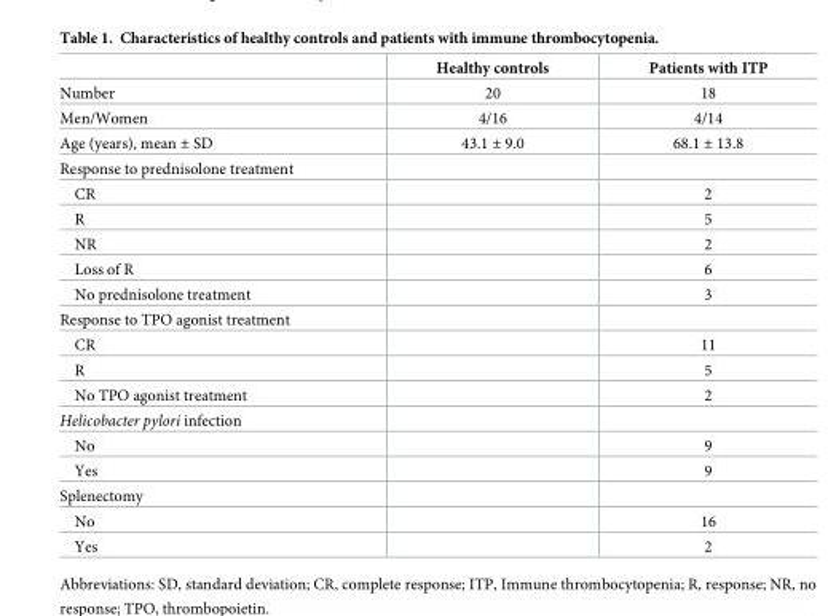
<table><thead><tr><td></td><td>Healthy controls</td><td>Patients with ITP</td></tr></thead><tbody><tr><td>Number</td><td>20</td><td>18</td></tr><tr><td>Men/Women</td><td>4/16</td><td>4/14</td></tr><tr><td>Age (years), mean ± SD</td><td>43.1 ± 9.0</td><td>68.1 ± 13.8</td></tr><tr><td colspan="3">Response to prednisolone treatment</td></tr><tr><td>CR</td><td></td><td>2</td></tr><tr><td>R</td><td></td><td>5</td></tr><tr><td>NR</td><td></td><td>2</td></tr><tr><td>Loss of R</td><td></td><td>6</td></tr><tr><td>No prednisolone treatment</td><td></td><td>3</td></tr><tr><td colspan="3">Response to TPO agonist treatment</td></tr><tr><td>CR</td><td></td><td>11</td></tr><tr><td>R</td><td></td><td>5</td></tr><tr><td>No TPO agonist treatment</td><td></td><td>2</td></tr><tr><td colspan="3">Helicobacter pylori infection</td></tr><tr><td>No</td><td></td><td>9</td></tr><tr><td>Yes</td><td></td><td>9</td></tr><tr><td colspan="3">Splenectomy</td></tr><tr><td>No</td><td></td><td>16</td></tr><tr><td>Yes</td><td></td><td>2</td></tr></tbody></table>